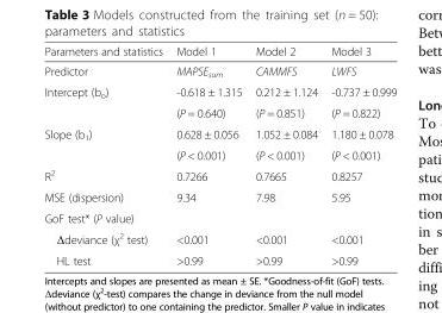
<table><thead><tr><td>Parameters and statistics</td><td>Model 1</td><td>Model 2</td><td>Model 3</td></tr></thead><tbody><tr><td>Predictor</td><td>MAPSE<sub>sum</sub></td><td>CAMMFS</td><td>LWFS</td></tr><tr><td rowspan="2">Intercept (b<sub>o</sub>)</td><td>-0.618 ± 1.315</td><td>0.212 ± 1.124</td><td>-0.737 ± 0.999</td></tr><tr><td>(P = 0.640)</td><td>(P = 0.851)</td><td>(P = 0.822)</td></tr><tr><td rowspan="2">Slope (b<sub>1</sub>)</td><td>0.628 ± 0.056</td><td>1.052 ± 0.084</td><td>1.180 ± 0.078</td></tr><tr><td>(P &lt; 0.001)</td><td>(P &lt; 0.001)</td><td>(P &lt; 0.001)</td></tr><tr><td>R<sup>2</sup></td><td>0.7266</td><td>0.7665</td><td>0.8257</td></tr><tr><td>MSE (dispersion)</td><td>9.34</td><td>7.98</td><td>5.95</td></tr><tr><td colspan="4">GoF test* (P value)</td></tr><tr><td>Δdeviance (χ<sup>2</sup> test)</td><td>&lt;0.001</td><td>&lt;0.001</td><td>&lt;0.001</td></tr><tr><td>HL test</td><td>&gt;0.99</td><td>&gt;0.99</td><td>&gt;0.99</td></tr></tbody></table>